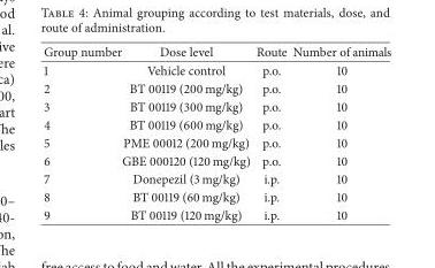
<table><thead><tr><td>Group number</td><td>Dose level</td><td>Route</td><td>Number of animals</td></tr></thead><tbody><tr><td>1</td><td>Vehicle control</td><td>p.o.</td><td>10</td></tr><tr><td>2</td><td>BT 00119 (200 mg/kg)</td><td>p.o.</td><td>10</td></tr><tr><td>3</td><td>BT 00119 (300 mg/kg)</td><td>p.o.</td><td>10</td></tr><tr><td>4</td><td>BT 00119 (600 mg/kg)</td><td>p.o.</td><td>10</td></tr><tr><td>5</td><td>PME 00012 (200 mg/kg)</td><td>p.o.</td><td>10</td></tr><tr><td>6</td><td>GBE 000120 (120 mg/kg)</td><td>p.o.</td><td>10</td></tr><tr><td>7</td><td>Donepezil (3 mg/kg)</td><td>i.p.</td><td>10</td></tr><tr><td>8</td><td>BT 00119 (60 mg/kg)</td><td>i.p.</td><td>10</td></tr><tr><td>9</td><td>BT 00119 (120 mg/kg)</td><td>i.p.</td><td>10</td></tr></tbody></table>